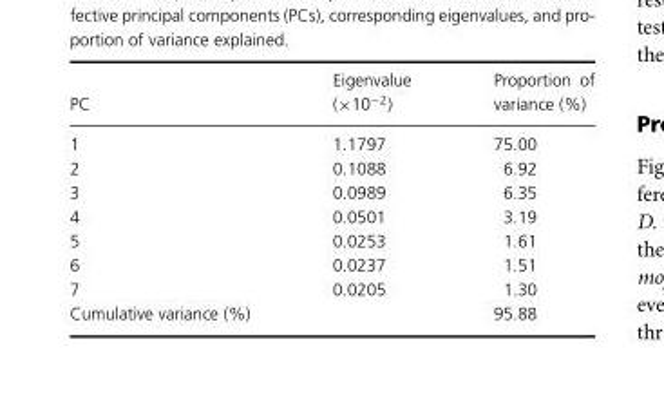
<table><thead><tr><td>PC</td><td>Eigenvalue (×10<sup>−2</sup>)</td><td>Proportion of variance (%)</td></tr></thead><tbody><tr><td>1</td><td>1.1797</td><td>75.00</td></tr><tr><td>2</td><td>0.1088</td><td>6.92</td></tr><tr><td>3</td><td>0.0989</td><td>6.35</td></tr><tr><td>4</td><td>0.0501</td><td>3.19</td></tr><tr><td>5</td><td>0.0253</td><td>1.61</td></tr><tr><td>6</td><td>0.0237</td><td>1.51</td></tr><tr><td>7</td><td>0.0205</td><td>1.30</td></tr><tr><td>Cumulative variance (%)</td><td></td><td>95.88</td></tr></tbody></table>